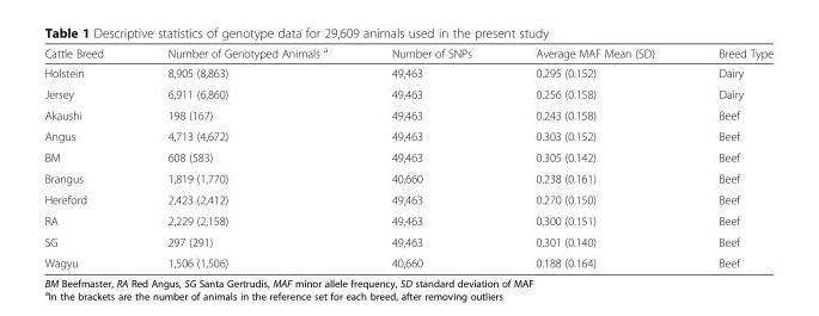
<table><thead><tr><td>Cattle Breed</td><td>Number of Genotyped Animals <sup>a</sup></td><td>Number of SNPs</td><td>Average MAF Mean (SD)</td><td>Breed Type</td></tr></thead><tbody><tr><td>Holstein</td><td>8,905 (8,863)</td><td>49,463</td><td>0.295 (0.152)</td><td>Dairy</td></tr><tr><td>Jersey</td><td>6,911 (6,860)</td><td>49,463</td><td>0.256 (0.158)</td><td>Dairy</td></tr><tr><td>Akaushi</td><td>198 (167)</td><td>49,463</td><td>0.243 (0.158)</td><td>Beef</td></tr><tr><td>Angus</td><td>4,713 (4,672)</td><td>49,463</td><td>0.303 (0.152)</td><td>Beef</td></tr><tr><td>BM</td><td>608 (583)</td><td>49,463</td><td>0.305 (0.142)</td><td>Beef</td></tr><tr><td>Brangus</td><td>1,819 (1,770)</td><td>40,660</td><td>0.238 (0.161)</td><td>Beef</td></tr><tr><td>Hereford</td><td>2,423 (2,412)</td><td>49,463</td><td>0.270 (0.150)</td><td>Beef</td></tr><tr><td>RA</td><td>2,229 (2,158)</td><td>49,463</td><td>0.300 (0.151)</td><td>Beef</td></tr><tr><td>SG</td><td>297 (291)</td><td>49,463</td><td>0.301 (0.140)</td><td>Beef</td></tr><tr><td>Wagyu</td><td>1,506 (1,506)</td><td>40,660</td><td>0.188 (0.164)</td><td>Beef</td></tr></tbody></table>